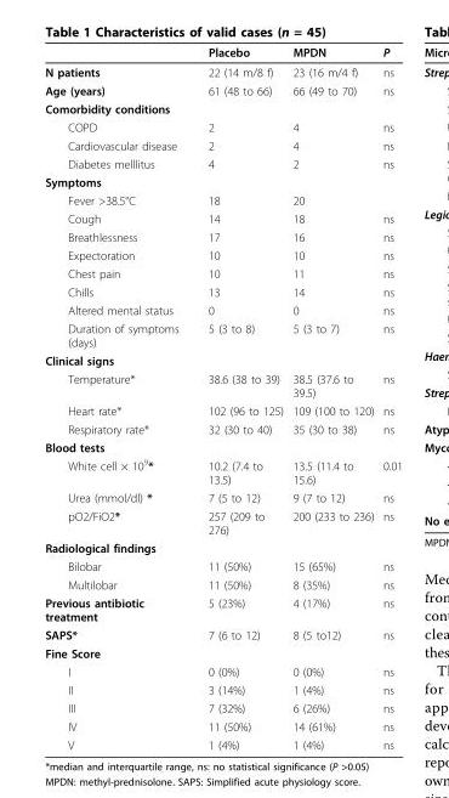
<table><thead><tr><td></td><td>Placebo</td><td>MPDN</td><td>P</td></tr></thead><tbody><tr><td>N patients</td><td>22 (14 m/8 f)</td><td>23 (16 m/4 f)</td><td>ns</td></tr><tr><td>Age (years)</td><td>61 (48 to 66)</td><td>66 (49 to 70)</td><td>ns</td></tr><tr><td colspan="4">Comorbidity conditions</td></tr><tr><td>COPD</td><td>2</td><td>4</td><td>ns</td></tr><tr><td>Cardiovascular disease</td><td>2</td><td>4</td><td>ns</td></tr><tr><td>Diabetes melllitus</td><td>4</td><td>2</td><td>ns</td></tr><tr><td colspan="4">Symptoms</td></tr><tr><td>Fever &gt;38.5°C</td><td>18</td><td>20</td><td></td></tr><tr><td>Cough</td><td>14</td><td>18</td><td>ns</td></tr><tr><td>Breathlessness</td><td>17</td><td>16</td><td>ns</td></tr><tr><td>Expectoration</td><td>10</td><td>10</td><td>ns</td></tr><tr><td>Chest pain</td><td>10</td><td>11</td><td>ns</td></tr><tr><td>Chills</td><td>13</td><td>14</td><td>ns</td></tr><tr><td>Altered mental status</td><td>0</td><td>0</td><td>ns</td></tr><tr><td>Duration of symptoms (days)</td><td>5 (3 to 8)</td><td>5 (3 to 7)</td><td>ns</td></tr><tr><td colspan="4">Clinical signs</td></tr><tr><td>Temperature*</td><td>38.6 (38 to 39)</td><td>38.5 (37.6 to 39.5)</td><td>ns</td></tr><tr><td>Heart rate*</td><td>102 (96 to 125)</td><td>109 (100 to 120)</td><td>ns</td></tr><tr><td>Respiratory rate*</td><td>32 (30 to 40)</td><td>35 (30 to 38)</td><td>ns</td></tr><tr><td colspan="4">Blood tests</td></tr><tr><td>White cell × 10<sup>9</sup>*</td><td>10.2 (7.4 to 13.5)</td><td>13.5 (11.4 to 15.6)</td><td>0.01</td></tr><tr><td>Urea (mmol/dl) *</td><td>7 (5 to 12)</td><td>9 (7 to 12)</td><td>ns</td></tr><tr><td>pO2/FiO2*</td><td>257 (209 to 276)</td><td>200 (233 to 236)</td><td>ns</td></tr><tr><td colspan="4">Radiological findings</td></tr><tr><td>Bilobar</td><td>11 (50%)</td><td>15 (65%)</td><td>ns</td></tr><tr><td>Multilobar</td><td>11 (50%)</td><td>8 (35%)</td><td>ns</td></tr><tr><td>Previous antibiotic treatment</td><td>5 (23%)</td><td>4 (17%)</td><td>ns</td></tr><tr><td>SAPS*</td><td>7 (6 to 12)</td><td>8 (5 to12)</td><td>ns</td></tr><tr><td colspan="4">Fine Score</td></tr><tr><td>I</td><td>0 (0%)</td><td>0 (0%)</td><td>ns</td></tr><tr><td>II</td><td>3 (14%)</td><td>1 (4%)</td><td>ns</td></tr><tr><td>III</td><td>7 (32%)</td><td>6 (26%)</td><td>ns</td></tr><tr><td>IV</td><td>11 (50%)</td><td>14 (61%)</td><td>ns</td></tr><tr><td>V</td><td>1 (4%)</td><td>1 (4%)</td><td>ns</td></tr></tbody></table>